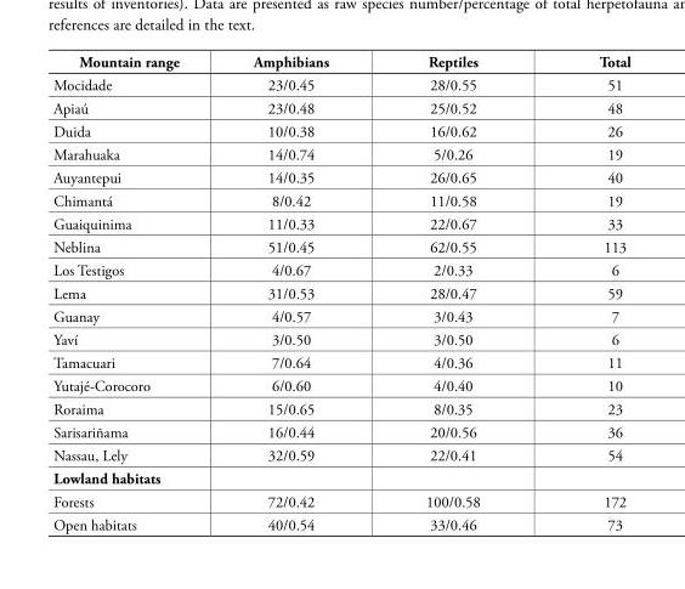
<table><thead><tr><td>Mountain range</td><td>Amphibians</td><td>Reptiles</td><td>Total</td></tr></thead><tbody><tr><td>Mocidade</td><td>23/0.45</td><td>28/0.55</td><td>51</td></tr><tr><td>Apiaú</td><td>23/0.48</td><td>25/0.52</td><td>48</td></tr><tr><td>Duida</td><td>10/0.38</td><td>16/0.62</td><td>26</td></tr><tr><td>Marahuaka</td><td>14/0.74</td><td>5/0.26</td><td>19</td></tr><tr><td>Auyantepui</td><td>14/0.35</td><td>26/0.65</td><td>40</td></tr><tr><td>Chimantá</td><td>8/0.42</td><td>11/0.58</td><td>19</td></tr><tr><td>Guaiquinima</td><td>11/0.33</td><td>22/0.67</td><td>33</td></tr><tr><td>Neblina</td><td>51/0.45</td><td>62/0.55</td><td>113</td></tr><tr><td>Los Testigos</td><td>4/0.67</td><td>2/0.33</td><td>6</td></tr><tr><td>Lema</td><td>31/0.53</td><td>28/0.47</td><td>59</td></tr><tr><td>Guanay</td><td>4/0.57</td><td>3/0.43</td><td>7</td></tr><tr><td>Yaví</td><td>3/0.50</td><td>3/0.50</td><td>6</td></tr><tr><td>Tamacuari</td><td>7/0.64</td><td>4/0.36</td><td>11</td></tr><tr><td>Yutajé-Corocoro</td><td>6/0.60</td><td>4/0.40</td><td>10</td></tr><tr><td>Roraima</td><td>15/0.65</td><td>8/0.35</td><td>23</td></tr><tr><td>Sarisariñama</td><td>16/0.44</td><td>20/0.56</td><td>36</td></tr><tr><td>Nassau, Lely</td><td>32/0.59</td><td>22/0.41</td><td>54</td></tr><tr><td colspan="4">Lowland habitats</td></tr><tr><td>Forests</td><td>72/0.42</td><td>100/0.58</td><td>172</td></tr><tr><td>Open habitats</td><td>40/0.54</td><td>33/0.46</td><td>73</td></tr></tbody></table>